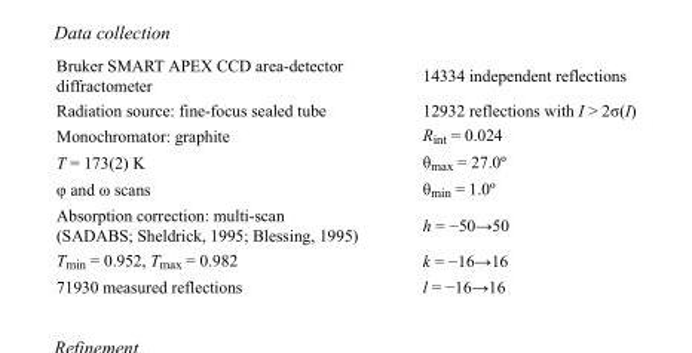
<table><tbody><tr><td>Bruker SMART APEX CCD area-detector diffractometer</td><td>14334 independent reflections</td></tr><tr><td>Radiation source: fine-focus sealed tube</td><td>12932 reflections with I &gt; 2σ(I)</td></tr><tr><td>Monochromator: graphite</td><td>R<sub>int</sub> = 0.024</td></tr><tr><td>T = 173(2) K</td><td>θ<sub>max</sub> = 27.0º</td></tr><tr><td>φ and ω scans</td><td>θ<sub>min</sub> = 1.0º</td></tr><tr><td>Absorption correction: multi-scan (SADABS; Sheldrick, 1995; Blessing, 1995)</td><td>h = −50→50</td></tr><tr><td>T<sub>min</sub> = 0.952, T<sub>max</sub> = 0.982</td><td>k = −16→16</td></tr><tr><td>71930 measured reflections</td><td>l = −16→16</td></tr></tbody></table>